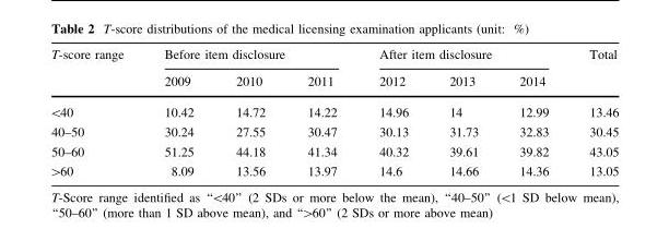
<table><thead><tr><td rowspan="2">T-score range</td><td colspan="3">Before item disclosure</td><td colspan="3">After item disclosure</td><td rowspan="2">Total</td></tr><tr><td>2009</td><td>2010</td><td>2011</td><td>2012</td><td>2013</td><td>2014</td></tr></thead><tbody><tr><td>&lt;40</td><td>10.42</td><td>14.72</td><td>14.22</td><td>14.96</td><td>14</td><td>12.99</td><td>13.46</td></tr><tr><td>40–50</td><td>30.24</td><td>27.55</td><td>30.47</td><td>30.13</td><td>31.73</td><td>32.83</td><td>30.45</td></tr><tr><td>50–60</td><td>51.25</td><td>44.18</td><td>41.34</td><td>40.32</td><td>39.61</td><td>39.82</td><td>43.05</td></tr><tr><td>&gt;60</td><td>8.09</td><td>13.56</td><td>13.97</td><td>14.6</td><td>14.66</td><td>14.36</td><td>13.05</td></tr></tbody></table>